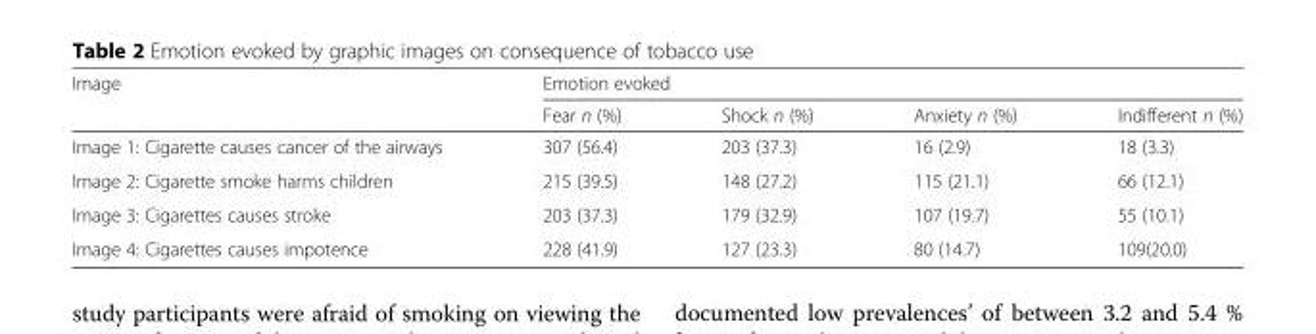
<table><thead><tr><td rowspan="2">Image</td><td colspan="4">Emotion evoked</td></tr><tr><td>Fear n (%)</td><td>Shock n (%)</td><td>Anxiety n (%)</td><td>Indifferent n (%)</td></tr></thead><tbody><tr><td>Image 1: Cigarette causes cancer of the airways</td><td>307 (56.4)</td><td>203 (37.3)</td><td>16 (2.9)</td><td>18 (3.3)</td></tr><tr><td>Image 2: Cigarette smoke harms children</td><td>215 (39.5)</td><td>148 (27.2)</td><td>115 (21.1)</td><td>66 (12.1)</td></tr><tr><td>Image 3: Cigarettes causes stroke</td><td>203 (37.3)</td><td>179 (32.9)</td><td>107 (19.7)</td><td>55 (10.1)</td></tr><tr><td>Image 4: Cigarettes causes impotence</td><td>228 (41.9)</td><td>127 (23.3)</td><td>80 (14.7)</td><td>109(20.0)</td></tr></tbody></table>